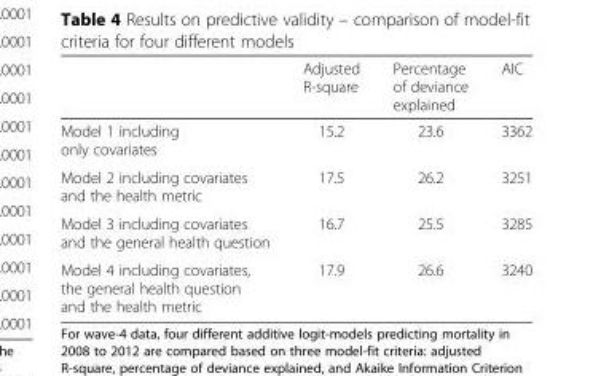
<table><thead><tr><td></td><td>Adjusted R-square</td><td>Percentage of deviance explained</td><td>AIC</td></tr></thead><tbody><tr><td>Model 1 including only covariates</td><td>15.2</td><td>23.6</td><td>3362</td></tr><tr><td>Model 2 including covariates and the health metric</td><td>17.5</td><td>26.2</td><td>3251</td></tr><tr><td>Model 3 including covariates and the general health question</td><td>16.7</td><td>25.5</td><td>3285</td></tr><tr><td>Model 4 including covariates, the general health question and the health metric</td><td>17.9</td><td>26.6</td><td>3240</td></tr></tbody></table>